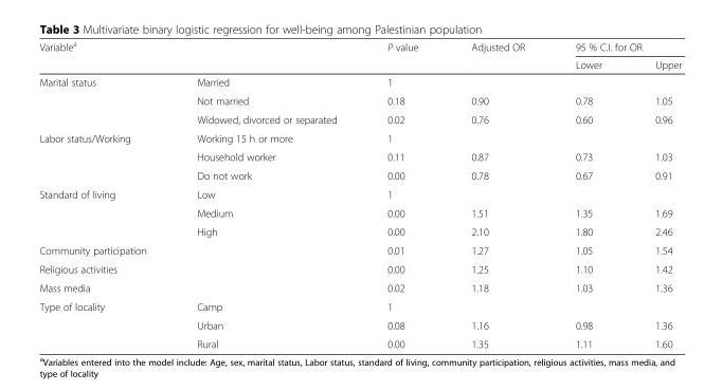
<table><thead><tr><td rowspan="2">Variable<sup>a</sup></td><td rowspan="2"></td><td rowspan="2">P value</td><td rowspan="2">Adjusted OR</td><td colspan="2">95 % C.I. for OR</td></tr><tr><td>Lower</td><td>Upper</td></tr></thead><tbody><tr><td rowspan="3">Marital status</td><td>Married</td><td>1</td><td></td><td></td><td></td></tr><tr><td>Not married</td><td>0.18</td><td>0.90</td><td>0.78</td><td>1.05</td></tr><tr><td>Widowed, divorced or separated</td><td>0.02</td><td>0.76</td><td>0.60</td><td>0.96</td></tr><tr><td rowspan="3">Labor status/Working</td><td>Working 15 h or more</td><td>1</td><td></td><td></td><td></td></tr><tr><td>Household worker</td><td>0.11</td><td>0.87</td><td>0.73</td><td>1.03</td></tr><tr><td>Do not work</td><td>0.00</td><td>0.78</td><td>0.67</td><td>0.91</td></tr><tr><td rowspan="3">Standard of living</td><td>Low</td><td>1</td><td></td><td></td><td></td></tr><tr><td>Medium</td><td>0.00</td><td>1.51</td><td>1.35</td><td>1.69</td></tr><tr><td>High</td><td>0.00</td><td>2.10</td><td>1.80</td><td>2.46</td></tr><tr><td>Community participation</td><td></td><td>0.01</td><td>1.27</td><td>1.05</td><td>1.54</td></tr><tr><td>Religious activities</td><td></td><td>0.00</td><td>1.25</td><td>1.10</td><td>1.42</td></tr><tr><td>Mass media</td><td></td><td>0.02</td><td>1.18</td><td>1.03</td><td>1.36</td></tr><tr><td rowspan="3">Type of locality</td><td>Camp</td><td>1</td><td></td><td></td><td></td></tr><tr><td>Urban</td><td>0.08</td><td>1.16</td><td>0.98</td><td>1.36</td></tr><tr><td>Rural</td><td>0.00</td><td>1.35</td><td>1.11</td><td>1.60</td></tr></tbody></table>